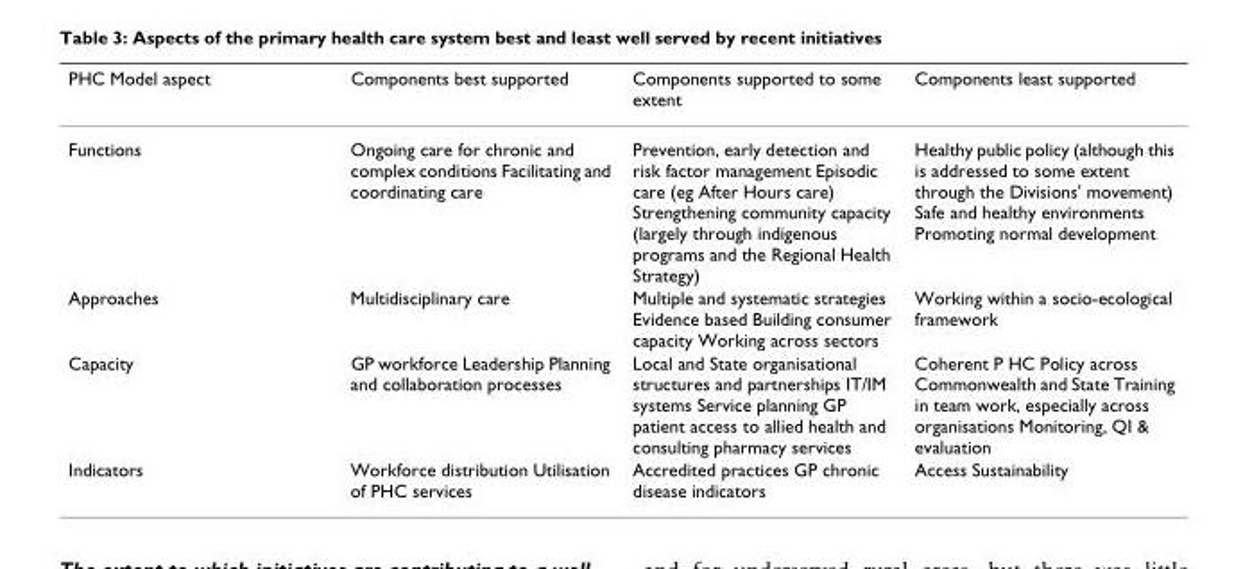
<table><thead><tr><td>PHC Model aspect</td><td>Components best supported</td><td>Components supported to some extent</td><td>Components least supported</td></tr></thead><tbody><tr><td>Functions</td><td>Ongoing care for chronic and complex conditions Facilitating and coordinating care</td><td>Prevention, early detection and risk factor management Episodic care (eg After Hours care) Strengthening community capacity (largely through indigenous programs and the Regional Health Strategy)</td><td>Healthy public policy (although this is addressed to some extent through the Divisions&#x27; movement) Safe and healthy environments Promoting normal development</td></tr><tr><td>Approaches</td><td>Multidisciplinary care</td><td>Multiple and systematic strategies Evidence based Building consumer capacity Working across sectors</td><td>Working within a socio-ecological framework</td></tr><tr><td>Capacity</td><td>GP workforce Leadership Planning and collaboration processes</td><td>Local and State organisational structures and partnerships IT/IM systems Service planning GP patient access to allied health and consulting pharmacy services</td><td>Coherent P HC Policy across Commonwealth and State Training in team work, especially across organisations Monitoring, QI &amp; evaluation</td></tr><tr><td>Indicators</td><td>Workforce distribution Utilisation of PHC services</td><td>Accredited practices GP chronic disease indicators</td><td>Access Sustainability</td></tr></tbody></table>